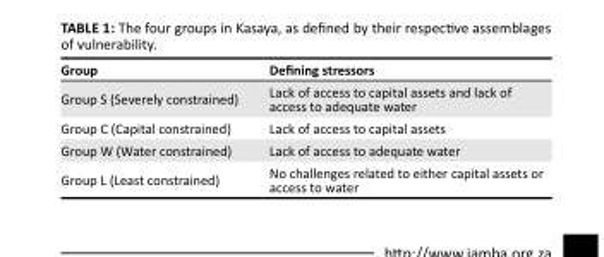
<table><thead><tr><td>Group</td><td>Defining stressors</td></tr></thead><tbody><tr><td>Group S (Severely constrained)</td><td>Lack of access to capital assets and lack of access to adequate water</td></tr><tr><td>Group C (Capital constrained)</td><td>Lack of access to capital assets</td></tr><tr><td>Group W (Water constrained)</td><td>Lack of access to adequate water</td></tr><tr><td>Group L (Least constrained)</td><td>No challenges related to either capital assets or access to water</td></tr></tbody></table>